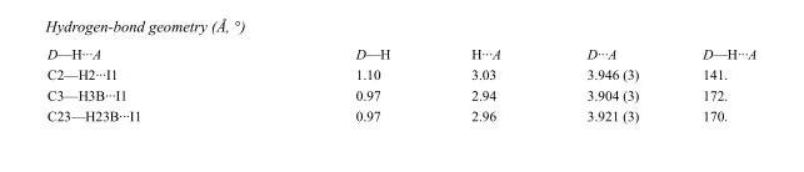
<table><tbody><tr><td>D—H···A</td><td>D—H</td><td>H···A</td><td>D···A</td><td>D—H···A</td></tr><tr><td>C2—H2···I1</td><td>1.10</td><td>3.03</td><td>3.946 (3)</td><td>141.</td></tr><tr><td>C3—H3B···I1</td><td>0.97</td><td>2.94</td><td>3.904 (3)</td><td>172.</td></tr><tr><td>C23—H23B···I1</td><td>0.97</td><td>2.96</td><td>3.921 (3)</td><td>170.</td></tr></tbody></table>